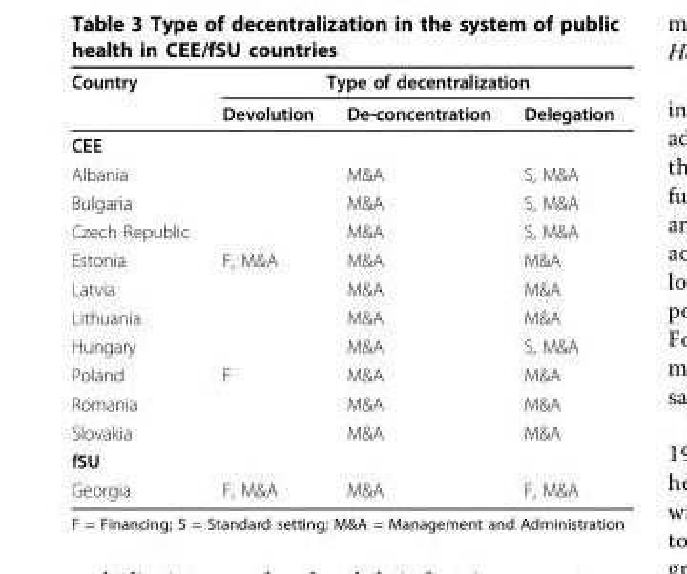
<table><thead><tr><td rowspan="2">Country</td><td colspan="3">Type of decentralization</td></tr><tr><td>Devolution</td><td>De-concentration</td><td>Delegation</td></tr></thead><tbody><tr><td colspan="4">CEE</td></tr><tr><td>Albania</td><td></td><td>M&amp;A</td><td>S, M&amp;A</td></tr><tr><td>Bulgaria</td><td></td><td>M&amp;A</td><td>S, M&amp;A</td></tr><tr><td>Czech Republic</td><td></td><td>M&amp;A</td><td>S, M&amp;A</td></tr><tr><td>Estonia</td><td>F, M&amp;A</td><td>M&amp;A</td><td>M&amp;A</td></tr><tr><td>Latvia</td><td></td><td>M&amp;A</td><td>M&amp;A</td></tr><tr><td>Lithuania</td><td></td><td>M&amp;A</td><td>M&amp;A</td></tr><tr><td>Hungary</td><td></td><td>M&amp;A</td><td>S, M&amp;A</td></tr><tr><td>Poland</td><td>F</td><td>M&amp;A</td><td>M&amp;A</td></tr><tr><td>Romania</td><td></td><td>M&amp;A</td><td>M&amp;A</td></tr><tr><td>Slovakia</td><td></td><td>M&amp;A</td><td>M&amp;A</td></tr><tr><td colspan="4">fSU</td></tr><tr><td>Georgia</td><td>F, M&amp;A</td><td>M&amp;A</td><td>F, M&amp;A</td></tr></tbody></table>